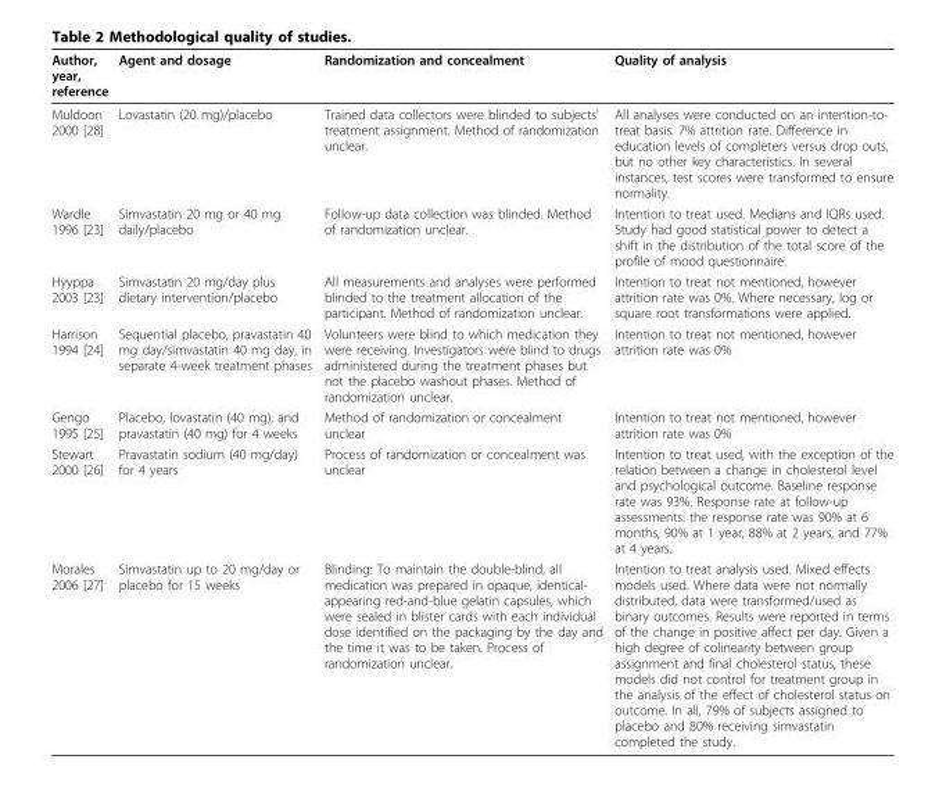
<table><thead><tr><td>Author, year, reference</td><td>Agent and dosage</td><td>Randomization and concealment</td><td>Quality of analysis</td></tr></thead><tbody><tr><td>Muldoon 2000 [28]</td><td>Lovastatin (20 mg)/placebo</td><td>Trained data collectors were blinded to subjects’ treatment assignment. Method of randomization unclear.</td><td>All analyses were conducted on an intention-to- treat basis. 7% attrition rate. Difference in education levels of completers versus drop outs, but no other key characteristics. In several instances, test scores were transformed to ensure normality.</td></tr><tr><td>Wardle 1996 [23]</td><td>Simvastatin 20 mg or 40 mg daily/placebo</td><td>Follow-up data collection was blinded. Method of randomization unclear.</td><td>Intention to treat used. Medians and IQRs used. Study had good statistical power to detect a shift in the distribution of the total score of the profile of mood questionnaire.</td></tr><tr><td>Hyyppa 2003 [23]</td><td>Simvastatin 20 mg/day plus dietary intervention/placebo</td><td>All measurements and analyses were performed blinded to the treatment allocation of the participant. Method of randomization unclear.</td><td>Intention to treat not mentioned, however attrition rate was 0%. Where necessary, log or square root transformations were applied.</td></tr><tr><td>Harrison 1994 [24]</td><td>Sequential placebo, pravastatin 40 mg day/simvastatin 40 mg day, in separate 4-week treatment phases</td><td>Volunteers were blind to which medication they were receiving. Investigators were blind to drugs administered during the treatment phases but not the placebo washout phases. Method of randomization unclear.</td><td>Intention to treat not mentioned, however attrition rate was 0%</td></tr><tr><td>Gengo 1995 [25]</td><td>Placebo, lovastatin (40 mg), and pravastatin (40 mg) for 4 weeks</td><td>Method of randomization or concealment unclear</td><td>Intention to treat not mentioned, however attrition rate was 0%</td></tr><tr><td>Stewart 2000 [26]</td><td>Pravastatin sodium (40 mg/day) for 4 years</td><td>Process of randomization or concealment was unclear</td><td>Intention to treat used, with the exception of the relation between a change in cholesterol level and psychological outcome. Baseline response rate was 93%. Response rate at follow-up assessments: the response rate was 90% at 6 months, 90% at 1 year, 88% at 2 years, and 77% at 4 years.</td></tr><tr><td>Morales 2006 [27]</td><td>Simvastatin up to 20 mg/day or placebo for 15 weeks</td><td>Blinding: To maintain the double-blind, all medication was prepared in opaque, identical- appearing red-and-blue gelatin capsules, which were sealed in blister cards with each individual dose identified on the packaging by the day and the time it was to be taken. Process of randomization unclear.</td><td>Intention to treat analysis used. Mixed effects models used. Where data were not normally distributed, data were transformed/used as binary outcomes. Results were reported in terms of the change in positive affect per day. Given a high degree of colinearity between group assignment and final cholesterol status, these models did not control for treatment group in the analysis of the effect of cholesterol status on outcome. In all, 79% of subjects assigned to placebo and 80% receiving simvastatin completed the study.</td></tr></tbody></table>